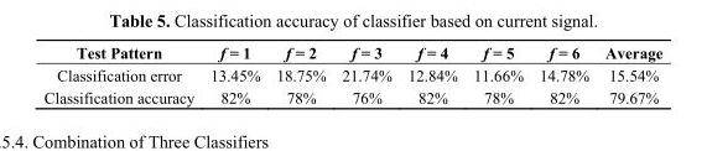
<table><thead><tr><td>Test Pattern</td><td>f = 1</td><td>f = 2</td><td>f = 3</td><td>f = 4</td><td>f = 5</td><td>f = 6</td><td>Average</td></tr></thead><tbody><tr><td>Classification error</td><td>13.45%</td><td>18.75%</td><td>21.74%</td><td>12.84%</td><td>11.66%</td><td>14.78%</td><td>15.54%</td></tr><tr><td>Classification accuracy</td><td>82%</td><td>78%</td><td>76%</td><td>82%</td><td>78%</td><td>82%</td><td>79.67%</td></tr></tbody></table>